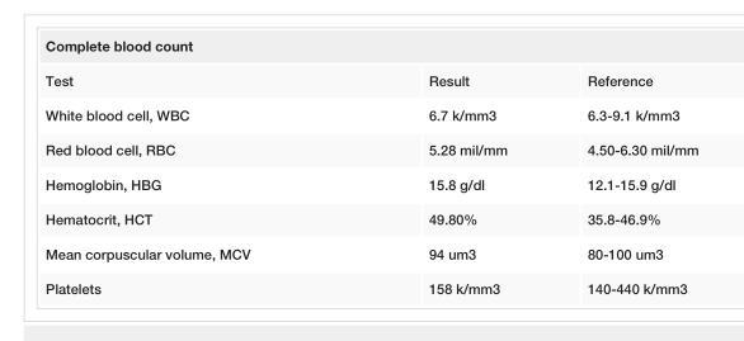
<table><tbody><tr><td colspan="3">Complete blood count</td></tr><tr><td>Test</td><td>Result</td><td>Reference</td></tr><tr><td>White blood cell, WBC</td><td>6.7 k/mm3</td><td>6.3-9.1 k/mm3</td></tr><tr><td>Red blood cell, RBC</td><td>5.28 mil/mm</td><td>4.50-6.30 mil/mm</td></tr><tr><td>Hemoglobin, HBG</td><td>15.8 g/dl</td><td>12.1-15.9 g/dl</td></tr><tr><td>Hematocrit, HCT</td><td>49.80%</td><td>35.8-46.9%</td></tr><tr><td>Mean corpuscular volume, MCV</td><td>94 um3</td><td>80-100 um3</td></tr><tr><td>Platelets</td><td>158 k/mm3</td><td>140-440 k/mm3</td></tr></tbody></table>